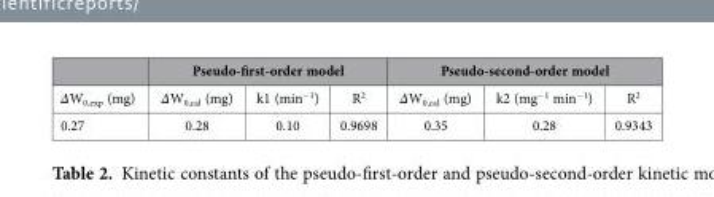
<table><thead><tr><td rowspan="2">ΔW<sub>0,exp</sub> (mg)</td><td colspan="3">Pseudo-first-order model</td><td colspan="3">Pseudo-second-order model</td></tr><tr><td>ΔW<sub>0,cal</sub> (mg)</td><td>k1 (min<sup>−1</sup>)</td><td>R<sup>2</sup></td><td>ΔW<sub>0,cal</sub> (mg)</td><td>k2 (mg<sup>−1</sup> min<sup>−1</sup>)</td><td>R<sup>2</sup></td></tr></thead><tbody><tr><td>0.27</td><td>0.28</td><td>0.10</td><td>0.9698</td><td>0.35</td><td>0.28</td><td>0.9343</td></tr></tbody></table>